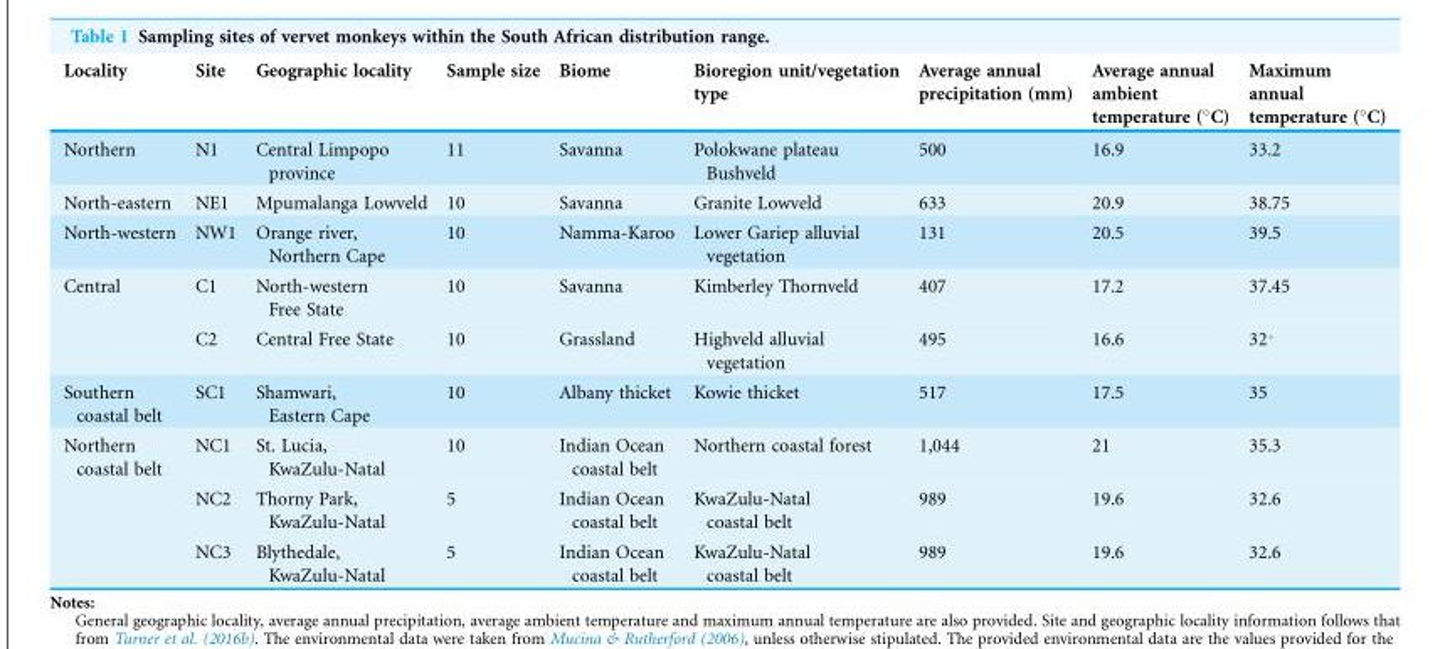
<table><thead><tr><td>Locality</td><td>Site</td><td>Geographic locality</td><td>Sample size</td><td>Biome</td><td>Bioregion unit/vegetation type</td><td>Average annual precipitation (mm)</td><td>Average annual ambient temperature (°C)</td><td>Maximum annual temperature (°C)</td></tr></thead><tbody><tr><td>Northern</td><td>N1</td><td>Central Limpopo province</td><td>11</td><td>Savanna</td><td>Polokwane plateau Bushveld</td><td>500</td><td>16.9</td><td>33.2</td></tr><tr><td>North-eastern</td><td>NE1</td><td>Mpumalanga Lowveld</td><td>10</td><td>Savanna</td><td>Granite Lowveld</td><td>633</td><td>20.9</td><td>38.75</td></tr><tr><td>North-western</td><td>NW1</td><td>Orange river, Northern Cape</td><td>10</td><td>Namma-Karoo</td><td>Lower Gariep alluvial vegetation</td><td>131</td><td>20.5</td><td>39.5</td></tr><tr><td rowspan="2">Central</td><td>C1</td><td>North-western Free State</td><td>10</td><td>Savanna</td><td>Kimberley Thornveld</td><td>407</td><td>17.2</td><td>37.45</td></tr><tr><td>C2</td><td>Central Free State</td><td>10</td><td>Grassland</td><td>Highveld alluvial vegetation</td><td>495</td><td>16.6</td><td>32*</td></tr><tr><td>Southern coastal belt</td><td>SC1</td><td>Shamwari, Eastern Cape</td><td>10</td><td>Albany thicket</td><td>Kowie thicket</td><td>517</td><td>17.5</td><td>35</td></tr><tr><td rowspan="3">Northern coastal belt</td><td>NC1</td><td>St. Lucia, KwaZulu-Natal</td><td>10</td><td>Indian Ocean coastal belt</td><td>Northern coastal forest</td><td>1,044</td><td>21</td><td>35.3</td></tr><tr><td>NC2</td><td>Thorny Park, KwaZulu-Natal</td><td>5</td><td>Indian Ocean coastal belt</td><td>KwaZulu-Natal coastal belt</td><td>989</td><td>19.6</td><td>32.6</td></tr><tr><td>NC3</td><td>Blythedale, KwaZulu-Natal</td><td>5</td><td>Indian Ocean coastal belt</td><td>KwaZulu-Natal coastal belt</td><td>989</td><td>19.6</td><td>32.6</td></tr></tbody></table>